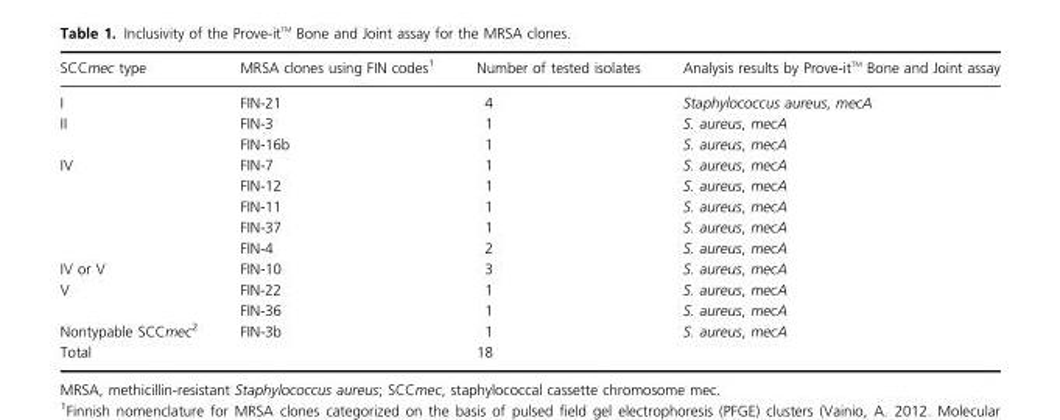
<table><thead><tr><td>SCCmec type</td><td>MRSA clones using FIN codes<sup>1</sup></td><td>Number of tested isolates</td><td>Analysis results by Prove-it TM Bone and Joint assay</td></tr></thead><tbody><tr><td>I</td><td>FIN-21</td><td>4</td><td>Staphylococcus aureus, mecA</td></tr><tr><td rowspan="2">II</td><td>FIN-3</td><td>1</td><td>S. aureus, mecA</td></tr><tr><td>FIN-16b</td><td>1</td><td>S. aureus, mecA</td></tr><tr><td rowspan="5">IV</td><td>FIN-7</td><td>1</td><td>S. aureus, mecA</td></tr><tr><td>FIN-12</td><td>1</td><td>S. aureus, mecA</td></tr><tr><td>FIN-11</td><td>1</td><td>S. aureus, mecA</td></tr><tr><td>FIN-37</td><td>1</td><td>S. aureus, mecA</td></tr><tr><td>FIN-4</td><td>2</td><td>S. aureus, mecA</td></tr><tr><td>IV or V</td><td>FIN-10</td><td>3</td><td>S. aureus, mecA</td></tr><tr><td rowspan="2">V</td><td>FIN-22</td><td>1</td><td>S. aureus, mecA</td></tr><tr><td>FIN-36</td><td>1</td><td>S. aureus, mecA</td></tr><tr><td>Nontypable SCCmec<sup>2</sup></td><td>FIN-3b</td><td>1</td><td>S. aureus, mecA</td></tr><tr><td>Total</td><td></td><td>18</td><td></td></tr></tbody></table>